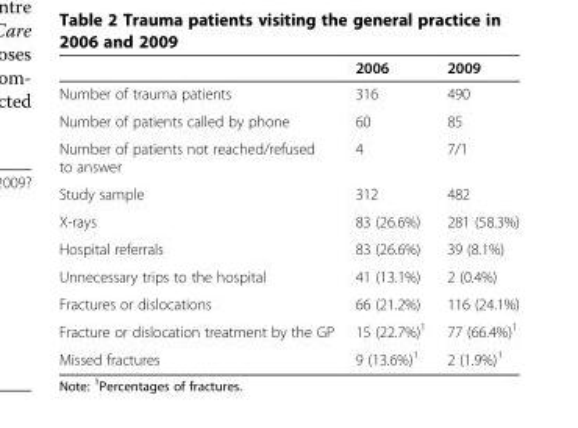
<table><thead><tr><td></td><td>2006</td><td>2009</td></tr></thead><tbody><tr><td>Number of trauma patients</td><td>316</td><td>490</td></tr><tr><td>Number of patients called by phone</td><td>60</td><td>85</td></tr><tr><td>Number of patients not reached/refused to answer</td><td>4</td><td>7/1</td></tr><tr><td>Study sample</td><td>312</td><td>482</td></tr><tr><td>X-rays</td><td>83 (26.6%)</td><td>281 (58.3%)</td></tr><tr><td>Hospital referrals</td><td>83 (26.6%)</td><td>39 (8.1%)</td></tr><tr><td>Unnecessary trips to the hospital</td><td>41 (13.1%)</td><td>2 (0.4%)</td></tr><tr><td>Fractures or dislocations</td><td>66 (21.2%)</td><td>116 (24.1%)</td></tr><tr><td>Fracture or dislocation treatment by the GP</td><td>15 (22.7%)<sup>1</sup></td><td>77 (66.4%)<sup>1</sup></td></tr><tr><td>Missed fractures</td><td>9 (13.6%)<sup>1</sup></td><td>2 (1.9%)<sup>1</sup></td></tr></tbody></table>